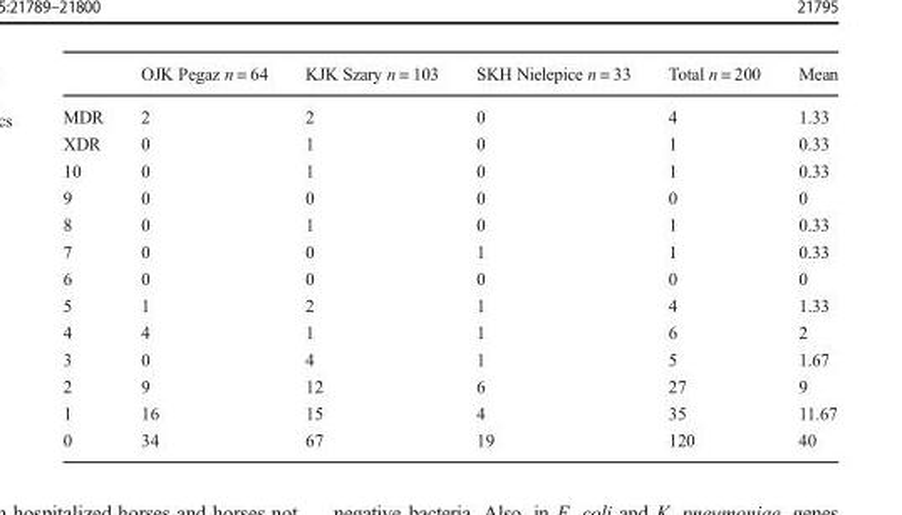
<table><thead><tr><td></td><td>OJK Pegaz n = 64</td><td>KJK Szary n = 103</td><td>SKH Nielepice n = 33</td><td>Total n = 200</td><td>Mean</td></tr></thead><tbody><tr><td>MDR</td><td>2</td><td>2</td><td>0</td><td>4</td><td>1.33</td></tr><tr><td>XDR</td><td>0</td><td>1</td><td>0</td><td>1</td><td>0.33</td></tr><tr><td>10</td><td>0</td><td>1</td><td>0</td><td>1</td><td>0.33</td></tr><tr><td>9</td><td>0</td><td>0</td><td>0</td><td>0</td><td>0</td></tr><tr><td>8</td><td>0</td><td>1</td><td>0</td><td>1</td><td>0.33</td></tr><tr><td>7</td><td>0</td><td>0</td><td>1</td><td>1</td><td>0.33</td></tr><tr><td>6</td><td>0</td><td>0</td><td>0</td><td>0</td><td>0</td></tr><tr><td>5</td><td>1</td><td>2</td><td>1</td><td>4</td><td>1.33</td></tr><tr><td>4</td><td>4</td><td>1</td><td>1</td><td>6</td><td>2</td></tr><tr><td>3</td><td>0</td><td>4</td><td>1</td><td>5</td><td>1.67</td></tr><tr><td>2</td><td>9</td><td>12</td><td>6</td><td>27</td><td>9</td></tr><tr><td>1</td><td>16</td><td>15</td><td>4</td><td>35</td><td>11.67</td></tr><tr><td>0</td><td>34</td><td>67</td><td>19</td><td>120</td><td>40</td></tr></tbody></table>